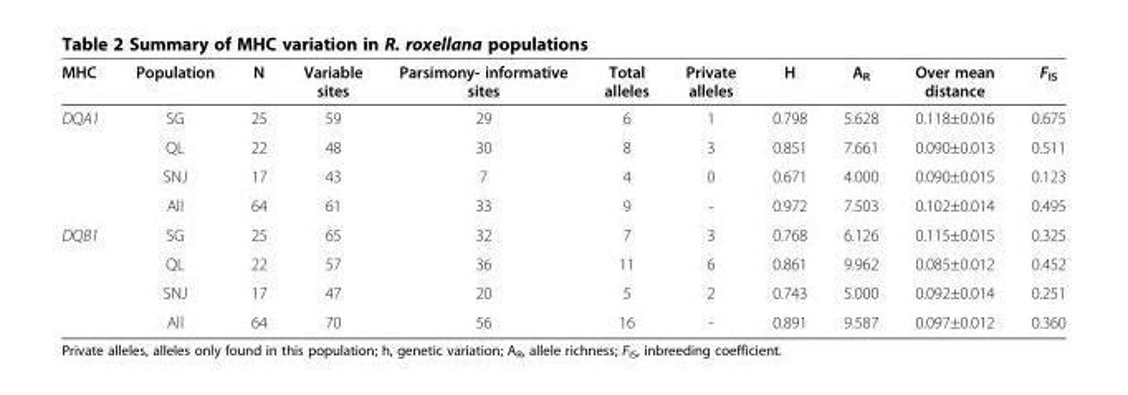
<table><thead><tr><td>MHC</td><td>Population</td><td>N</td><td>Variable sites</td><td>Parsimony- informative sites</td><td>Total alleles</td><td>Private alleles</td><td>H</td><td>A<sub>R</sub></td><td>Over mean distance</td><td>F<sub>IS</sub></td></tr></thead><tbody><tr><td rowspan="4">DQA1</td><td>SG</td><td>25</td><td>59</td><td>29</td><td>6</td><td>1</td><td>0.798</td><td>5.628</td><td>0.118±0.016</td><td>0.675</td></tr><tr><td>QL</td><td>22</td><td>48</td><td>30</td><td>8</td><td>3</td><td>0.851</td><td>7.661</td><td>0.090±0.013</td><td>0.511</td></tr><tr><td>SNJ</td><td>17</td><td>43</td><td>7</td><td>4</td><td>0</td><td>0.671</td><td>4.000</td><td>0.090±0.015</td><td>0.123</td></tr><tr><td>All</td><td>64</td><td>61</td><td>33</td><td>9</td><td>-</td><td>0.972</td><td>7.503</td><td>0.102±0.014</td><td>0.495</td></tr><tr><td rowspan="4">DQB1</td><td>SG</td><td>25</td><td>65</td><td>32</td><td>7</td><td>3</td><td>0.768</td><td>6.126</td><td>0.115±0.015</td><td>0.325</td></tr><tr><td>QL</td><td>22</td><td>57</td><td>36</td><td>11</td><td>6</td><td>0.861</td><td>9.962</td><td>0.085±0.012</td><td>0.452</td></tr><tr><td>SNJ</td><td>17</td><td>47</td><td>20</td><td>5</td><td>2</td><td>0.743</td><td>5.000</td><td>0.092±0.014</td><td>0.251</td></tr><tr><td>All</td><td>64</td><td>70</td><td>56</td><td>16</td><td>-</td><td>0.891</td><td>9.587</td><td>0.097±0.012</td><td>0.360</td></tr></tbody></table>